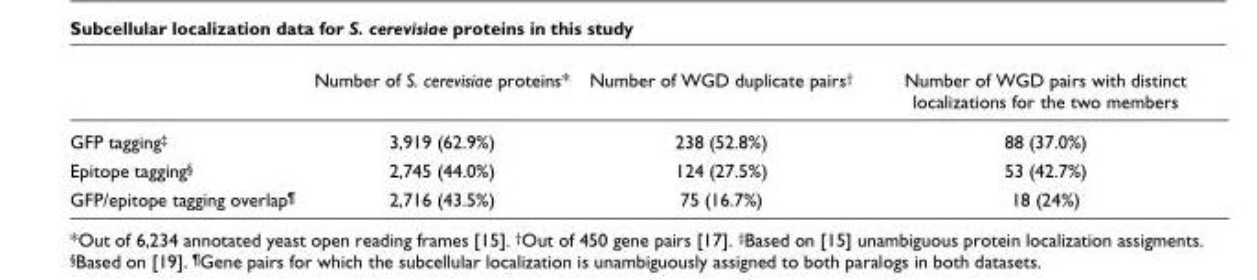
<table><thead><tr><td></td><td>Number of S. cerevisiae proteins*</td><td>Number of WGD duplicate pairs<sup>†</sup></td><td>Number of WGD pairs with distinct localizations for the two members</td></tr></thead><tbody><tr><td>GFP tagging<sup>‡</sup></td><td>3,919 (62.9%)</td><td>238 (52.8%)</td><td>88 (37.0%)</td></tr><tr><td>Epitope tagging<sup>§</sup></td><td>2,745 (44.0%)</td><td>124 (27.5%)</td><td>53 (42.7%)</td></tr><tr><td>GFP/epitope tagging overlap<sup>¶</sup></td><td>2,716 (43.5%)</td><td>75 (16.7%)</td><td>18 (24%)</td></tr></tbody></table>